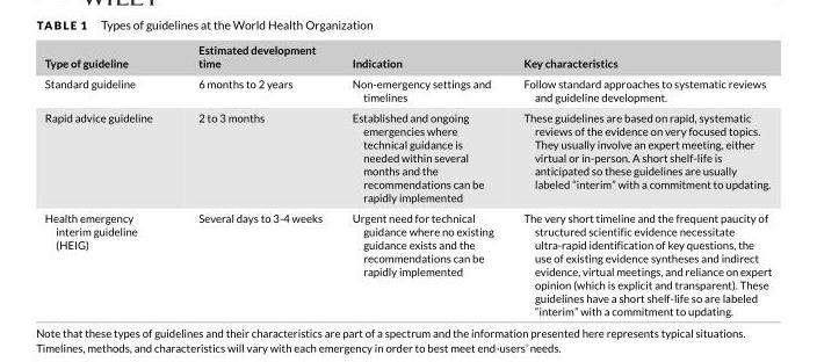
<table><thead><tr><td>Type of guideline</td><td>Estimated development time</td><td>Indication</td><td>Key characteristics</td></tr></thead><tbody><tr><td>Standard guideline</td><td>6 months to 2 years</td><td>Non-emergency settings and timelines</td><td>Follow standard approaches to systematic reviews and guideline development.</td></tr><tr><td>Rapid advice guideline</td><td>2 to 3 months</td><td>Established and ongoing emergencies where technical guidance is needed within several months and the recommendations can be rapidly implemented</td><td>These guidelines are based on rapid, systematic reviews of the evidence on very focused topics. They usually involve an expert meeting, either virtual or in-person. A short shelf-life is anticipated so these guidelines are usually labeled “interim” with a commitment to updating.</td></tr><tr><td>Health emergency interim guideline (HEIG)</td><td>Several days to 3-4 weeks</td><td>Urgent need for technical guidance where no existing guidance exists and the recommendations can be rapidly implemented</td><td>The very short timeline and the frequent paucity of structured scientific evidence necessitate ultra-rapid identification of key questions, the use of existing evidence syntheses and indirect evidence, virtual meetings, and reliance on expert opinion (which is explicit and transparent). These guidelines have a short shelf-life so are labeled “interim” with a commitment to updating.</td></tr></tbody></table>